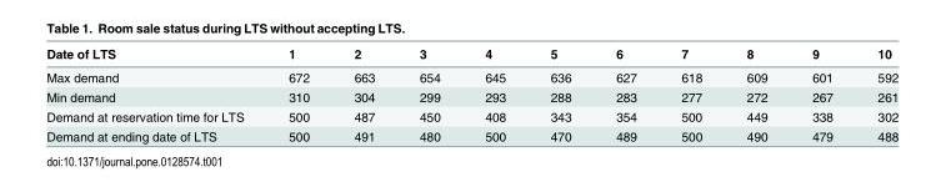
<table><thead><tr><td>Date of LTS</td><td>1</td><td>2</td><td>3</td><td>4</td><td>5</td><td>6</td><td>7</td><td>8</td><td>9</td><td>10</td></tr></thead><tbody><tr><td>Max demand</td><td>672</td><td>663</td><td>654</td><td>645</td><td>636</td><td>627</td><td>618</td><td>609</td><td>601</td><td>592</td></tr><tr><td>Min demand</td><td>310</td><td>304</td><td>299</td><td>293</td><td>288</td><td>283</td><td>277</td><td>272</td><td>267</td><td>261</td></tr><tr><td>Demand at reservation time for LTS</td><td>500</td><td>487</td><td>450</td><td>408</td><td>343</td><td>354</td><td>500</td><td>449</td><td>338</td><td>302</td></tr><tr><td>Demand at ending date of LTS</td><td>500</td><td>491</td><td>480</td><td>500</td><td>470</td><td>489</td><td>500</td><td>490</td><td>479</td><td>488</td></tr></tbody></table>